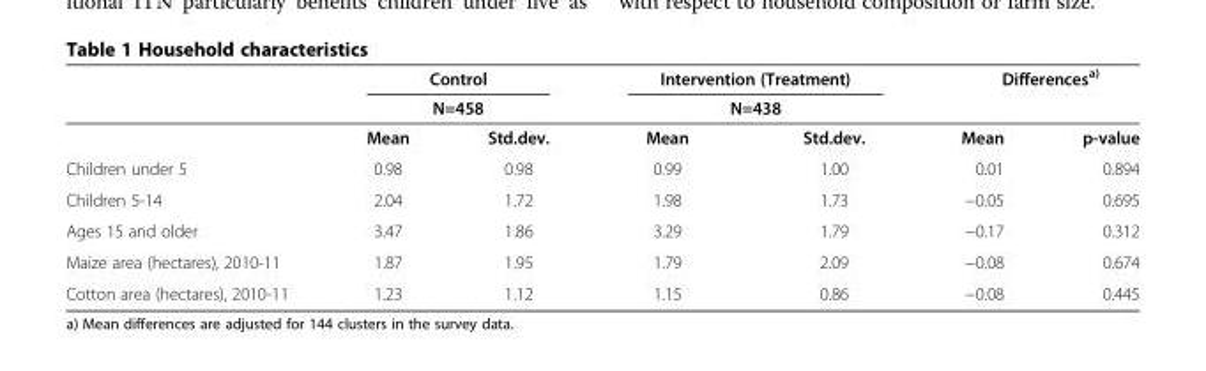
<table><thead><tr><td rowspan="3"></td><td rowspan="2" colspan="2">Control N=458</td><td rowspan="2" colspan="2">Intervention (Treatment) N=438</td><td colspan="2">Differences<sup>a)</sup></td></tr><tr><td rowspan="2">Mean</td><td rowspan="2">p-value</td></tr><tr><td>Mean</td><td>Std.dev.</td><td>Mean</td><td>Std.dev.</td></tr></thead><tbody><tr><td>Children under 5</td><td>0.98</td><td>0.98</td><td>0.99</td><td>1.00</td><td>0.01</td><td>0.894</td></tr><tr><td>Children 5-14</td><td>2.04</td><td>1.72</td><td>1.98</td><td>1.73</td><td>−0.05</td><td>0.695</td></tr><tr><td>Ages 15 and older</td><td>3.47</td><td>1.86</td><td>3.29</td><td>1.79</td><td>−0.17</td><td>0.312</td></tr><tr><td>Maize area (hectares), 2010-11</td><td>1.87</td><td>1.95</td><td>1.79</td><td>2.09</td><td>−0.08</td><td>0.674</td></tr><tr><td>Cotton area (hectares), 2010-11</td><td>1.23</td><td>1.12</td><td>1.15</td><td>0.86</td><td>−0.08</td><td>0.445</td></tr></tbody></table>